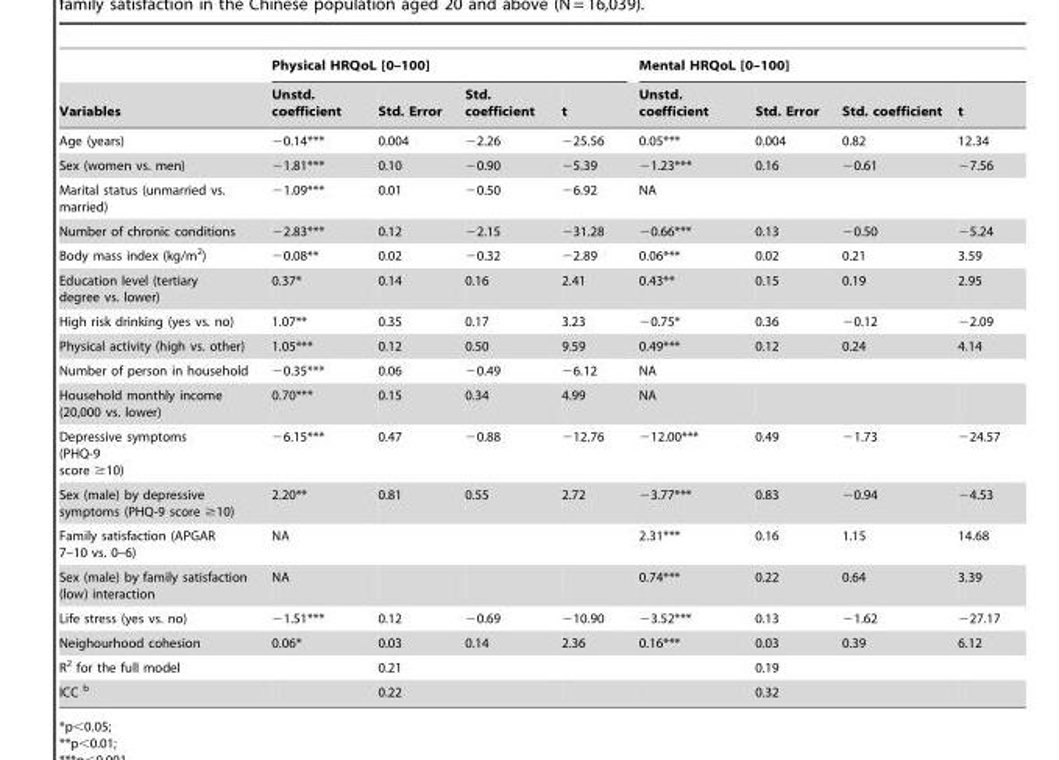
<table><thead><tr><td rowspan="2">Variables</td><td colspan="4">Physical HRQoL [0–100]</td><td colspan="4">Mental HRQoL [0–100]</td></tr><tr><td>Unstd. coefficient</td><td>Std. Error</td><td>Std. coefficient</td><td>t</td><td>Unstd. coefficient</td><td>Std. Error</td><td>Std. coefficient</td><td>t</td></tr></thead><tbody><tr><td>Age (years)</td><td>−0.14***</td><td>0.004</td><td>−2.26</td><td>−25.56</td><td>0.05***</td><td>0.004</td><td>0.82</td><td>12.34</td></tr><tr><td>Sex (women vs. men)</td><td>−1.81***</td><td>0.10</td><td>−0.90</td><td>−5.39</td><td>−1.23***</td><td>0.16</td><td>−0.61</td><td>−7.56</td></tr><tr><td>Marital status (unmarried vs. married)</td><td>−1.09***</td><td>0.01</td><td>−0.50</td><td>−6.92</td><td>NA</td><td></td><td></td><td></td></tr><tr><td>Number of chronic conditions</td><td>−2.83***</td><td>0.12</td><td>−2.15</td><td>−31.28</td><td>−0.66***</td><td>0.13</td><td>−0.50</td><td>−5.24</td></tr><tr><td>Body mass index (kg/m<sup>2</sup>)</td><td>−0.08**</td><td>0.02</td><td>−0.32</td><td>−2.89</td><td>0.06***</td><td>0.02</td><td>0.21</td><td>3.59</td></tr><tr><td>Education level (tertiary degree vs. lower)</td><td>0.37*</td><td>0.14</td><td>0.16</td><td>2.41</td><td>0.43**</td><td>0.15</td><td>0.19</td><td>2.95</td></tr><tr><td>High risk drinking (yes vs. no)</td><td>1.07**</td><td>0.35</td><td>0.17</td><td>3.23</td><td>−0.75*</td><td>0.36</td><td>−0.12</td><td>−2.09</td></tr><tr><td>Physical activity (high vs. other)</td><td>1.05***</td><td>0.12</td><td>0.50</td><td>9.59</td><td>0.49***</td><td>0.12</td><td>0.24</td><td>4.14</td></tr><tr><td>Number of person in household</td><td>−0.35***</td><td>0.06</td><td>−0.49</td><td>−6.12</td><td>NA</td><td></td><td></td><td></td></tr><tr><td>Household monthly income (20,000 vs. lower)</td><td>0.70***</td><td>0.15</td><td>0.34</td><td>4.99</td><td>NA</td><td></td><td></td><td></td></tr><tr><td>Depressive symptoms (PHQ-9 score ≥10)</td><td>−6.15***</td><td>0.47</td><td>−0.88</td><td>−12.76</td><td>−12.00***</td><td>0.49</td><td>−1.73</td><td>−24.57</td></tr><tr><td>Sex (male) by depressive symptoms (PHQ-9 score ≥10)</td><td>2.20**</td><td>0.81</td><td>0.55</td><td>2.72</td><td>−3.77***</td><td>0.83</td><td>−0.94</td><td>−4.53</td></tr><tr><td>Family satisfaction (APGAR 7–10 vs. 0–6)</td><td>NA</td><td></td><td></td><td></td><td>2.31***</td><td>0.16</td><td>1.15</td><td>14.68</td></tr><tr><td>Sex (male) by family satisfaction (low) interaction</td><td>NA</td><td></td><td></td><td></td><td>0.74***</td><td>0.22</td><td>0.64</td><td>3.39</td></tr><tr><td>Life stress (yes vs. no)</td><td>−1.51***</td><td>0.12</td><td>−0.69</td><td>−10.90</td><td>−3.52***</td><td>0.13</td><td>−1.62</td><td>−27.17</td></tr><tr><td>Neighourhood cohesion</td><td>0.06*</td><td>0.03</td><td>0.14</td><td>2.36</td><td>0.16***</td><td>0.03</td><td>0.39</td><td>6.12</td></tr><tr><td>R<sup>2</sup> for the full model</td><td></td><td colspan="2">0.21</td><td></td><td></td><td colspan="2">0.19</td><td></td></tr><tr><td>ICC b</td><td></td><td colspan="2">0.22</td><td></td><td></td><td colspan="2">0.32</td><td></td></tr></tbody></table>